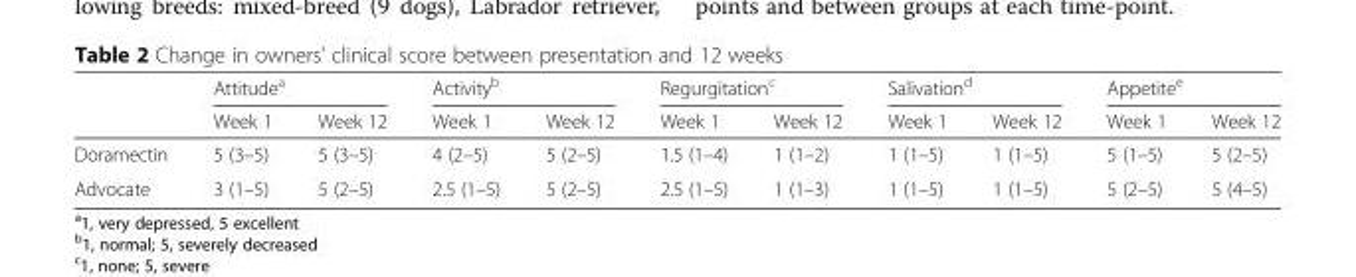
<table><thead><tr><td rowspan="2"></td><td colspan="2">Attitude<sup>a</sup></td><td colspan="2">Activity<sup>b</sup></td><td colspan="2">Regurgitation<sup>c</sup></td><td colspan="2">Salivation<sup>d</sup></td><td colspan="2">Appetite<sup>e</sup></td></tr><tr><td>Week 1</td><td>Week 12</td><td>Week 1</td><td>Week 12</td><td>Week 1</td><td>Week 12</td><td>Week 1</td><td>Week 12</td><td>Week 1</td><td>Week 12</td></tr></thead><tbody><tr><td>Doramectin</td><td>5 (3–5)</td><td>5 (3–5)</td><td>4 (2–5)</td><td>5 (2–5)</td><td>1.5 (1–4)</td><td>1 (1–2)</td><td>1 (1–5)</td><td>1 (1–5)</td><td>5 (1–5)</td><td>5 (2–5)</td></tr><tr><td>Advocate</td><td>3 (1–5)</td><td>5 (2–5)</td><td>2.5 (1–5)</td><td>5 (2–5)</td><td>2.5 (1–5)</td><td>1 (1–3)</td><td>1 (1–5)</td><td>1 (1–5)</td><td>5 (2–5)</td><td>5 (4–5)</td></tr></tbody></table>